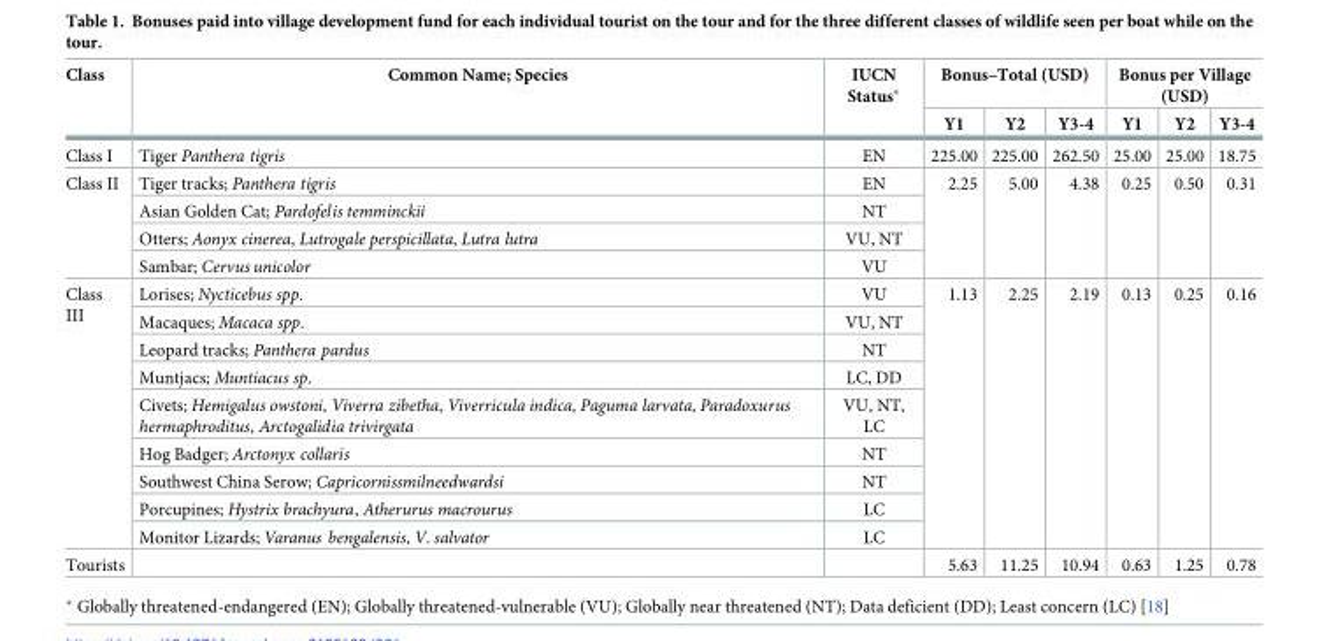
<table><thead><tr><td rowspan="2">Class</td><td rowspan="2">Common Name; Species</td><td rowspan="2">IUCN Status*</td><td colspan="3">Bonus–Total (USD)</td><td colspan="3">Bonus per Village (USD)</td></tr><tr><td>Y1</td><td>Y2</td><td>Y3-4</td><td>Y1</td><td>Y2</td><td>Y3-4</td></tr></thead><tbody><tr><td>Class I</td><td>Tiger Panthera tigris</td><td>EN</td><td>225.00</td><td>225.00</td><td>262.50</td><td>25.00</td><td>25.00</td><td>18.75</td></tr><tr><td rowspan="4">Class II</td><td>Tiger tracks; Panthera tigris</td><td>EN</td><td rowspan="4">2.25</td><td rowspan="4">5.00</td><td rowspan="4">4.38</td><td rowspan="4">0.25</td><td rowspan="4">0.50</td><td rowspan="4">0.31</td></tr><tr><td>Asian Golden Cat; Pardofelis temminckii</td><td>NT</td></tr><tr><td>Otters; Aonyx cinerea, Lutrogale perspicillata, Lutra lutra</td><td>VU, NT</td></tr><tr><td>Sambar; Cervus unicolor</td><td>VU</td></tr><tr><td rowspan="9">Class III</td><td>Lorises; Nycticebus spp.</td><td>VU</td><td rowspan="9">1.13</td><td rowspan="9">2.25</td><td rowspan="9">2.19</td><td rowspan="9">0.13</td><td rowspan="9">0.25</td><td rowspan="9">0.16</td></tr><tr><td>Macaques; Macaca spp.</td><td>VU, NT</td></tr><tr><td>Leopard tracks; Panthera pardus</td><td>NT</td></tr><tr><td>Muntjacs; Muntiacus sp.</td><td>LC, DD</td></tr><tr><td>Civets; Hemigalus owstoni, Viverra zibetha, Viverricula indica, Paguma larvata, Paradoxurus hermaphroditus, Arctogalidia trivirgata</td><td>VU, NT, LC</td></tr><tr><td>Hog Badger; Arctonyx collaris</td><td>NT</td></tr><tr><td>Southwest China Serow; Capricornissmilneedwardsi</td><td>NT</td></tr><tr><td>Porcupines; Hystrix brachyura, Atherurus macrourus</td><td>LC</td></tr><tr><td>Monitor Lizards; Varanus bengalensis, V. salvator</td><td>LC</td></tr><tr><td>Tourists</td><td></td><td></td><td>5.63</td><td>11.25</td><td>10.94</td><td>0.63</td><td>1.25</td><td>0.78</td></tr></tbody></table>